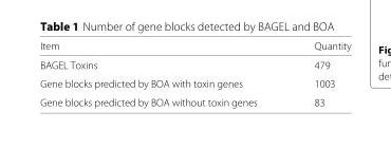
<table><thead><tr><td>Item</td><td>Quantity</td></tr></thead><tbody><tr><td>BAGEL Toxins</td><td>479</td></tr><tr><td>Gene blocks predicted by BOA with toxin genes</td><td>1003</td></tr><tr><td>Gene blocks predicted by BOA without toxin genes</td><td>83</td></tr></tbody></table>